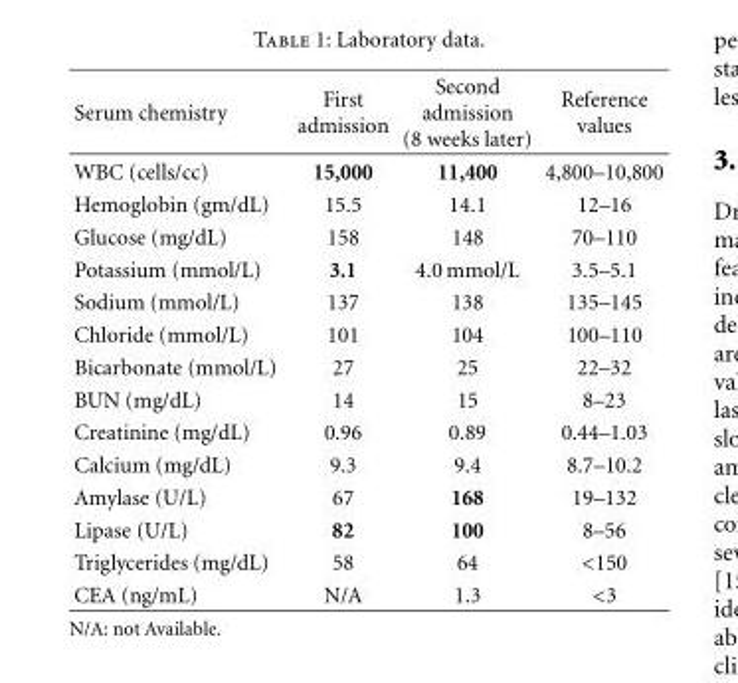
<table><thead><tr><td>Serum chemistry</td><td>First admission</td><td>Second admission (8 weeks later)</td><td>Reference values</td></tr></thead><tbody><tr><td>WBC (cells/cc)</td><td>15,000</td><td>11,400</td><td>4,800–10,800</td></tr><tr><td>Hemoglobin (gm/dL)</td><td>15.5</td><td>14.1</td><td>12–16</td></tr><tr><td>Glucose (mg/dL)</td><td>158</td><td>148</td><td>70–110</td></tr><tr><td>Potassium (mmol/L)</td><td>3.1</td><td>4.0 mmol/L</td><td>3.5–5.1</td></tr><tr><td>Sodium (mmol/L)</td><td>137</td><td>138</td><td>135–145</td></tr><tr><td>Chloride (mmol/L)</td><td>101</td><td>104</td><td>100–110</td></tr><tr><td>Bicarbonate (mmol/L)</td><td>27</td><td>25</td><td>22–32</td></tr><tr><td>BUN (mg/dL)</td><td>14</td><td>15</td><td>8–23</td></tr><tr><td>Creatinine (mg/dL)</td><td>0.96</td><td>0.89</td><td>0.44–1.03</td></tr><tr><td>Calcium (mg/dL)</td><td>9.3</td><td>9.4</td><td>8.7–10.2</td></tr><tr><td>Amylase (U/L)</td><td>67</td><td>168</td><td>19–132</td></tr><tr><td>Lipase (U/L)</td><td>82</td><td>100</td><td>8–56</td></tr><tr><td>Triglycerides (mg/dL)</td><td>58</td><td>64</td><td>&lt;150</td></tr><tr><td>CEA (ng/mL)</td><td>N/A</td><td>1.3</td><td>&lt;3</td></tr></tbody></table>